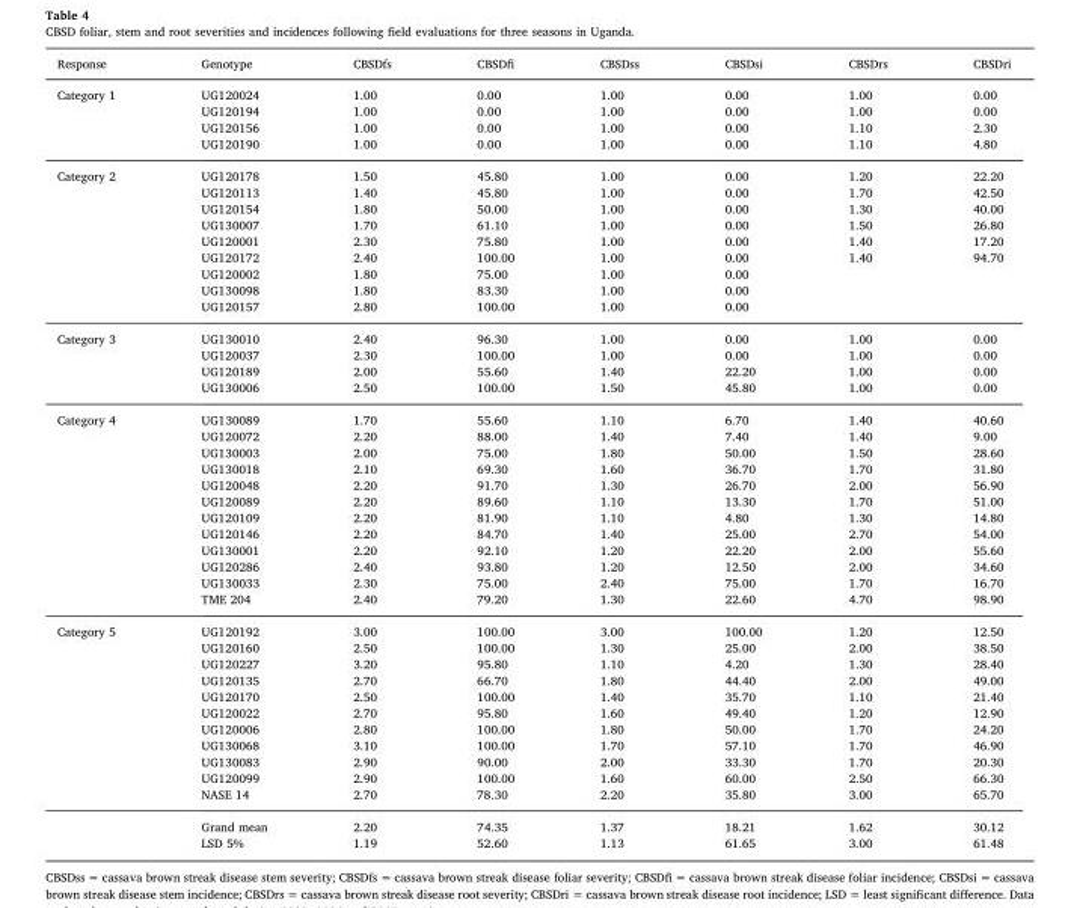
<table><thead><tr><td>Response</td><td>Genotype</td><td>CBSDfs</td><td>CBSDfi</td><td>CBSDss</td><td>CBSDsi</td><td>CBSDrs</td><td>CBSDri</td></tr></thead><tbody><tr><td rowspan="4">Category 1</td><td>UG120024</td><td>1.00</td><td>0.00</td><td>1.00</td><td>0.00</td><td>1.00</td><td>0.00</td></tr><tr><td>UG120194</td><td>1.00</td><td>0.00</td><td>1.00</td><td>0.00</td><td>1.00</td><td>0.00</td></tr><tr><td>UG120156</td><td>1.00</td><td>0.00</td><td>1.00</td><td>0.00</td><td>1.10</td><td>2.30</td></tr><tr><td>UG120190</td><td>1.00</td><td>0.00</td><td>1.00</td><td>0.00</td><td>1.10</td><td>4.80</td></tr><tr><td rowspan="9">Category 2</td><td>UG120178</td><td>1.50</td><td>45.80</td><td>1.00</td><td>0.00</td><td>1.20</td><td>22.20</td></tr><tr><td>UG120113</td><td>1.40</td><td>45.80</td><td>1.00</td><td>0.00</td><td>1.70</td><td>42.50</td></tr><tr><td>UG120154</td><td>1.80</td><td>50.00</td><td>1.00</td><td>0.00</td><td>1.30</td><td>40.00</td></tr><tr><td>UG130007</td><td>1.70</td><td>61.10</td><td>1.00</td><td>0.00</td><td>1.50</td><td>26.80</td></tr><tr><td>UG120001</td><td>2.30</td><td>75.80</td><td>1.00</td><td>0.00</td><td>1.40</td><td>17.20</td></tr><tr><td>UG120172</td><td>2.40</td><td>100.00</td><td>1.00</td><td>0.00</td><td>1.40</td><td>94.70</td></tr><tr><td>UG120002</td><td>1.80</td><td>75.00</td><td>1.00</td><td>0.00</td><td></td><td></td></tr><tr><td>UG130098</td><td>1.80</td><td>83.30</td><td>1.00</td><td>0.00</td><td></td><td></td></tr><tr><td>UG120157</td><td>2.80</td><td>100.00</td><td>1.00</td><td>0.00</td><td></td><td></td></tr><tr><td rowspan="4">Category 3</td><td>UG130010</td><td>2.40</td><td>96.30</td><td>1.00</td><td>0.00</td><td>1.00</td><td>0.00</td></tr><tr><td>UG120037</td><td>2.30</td><td>100.00</td><td>1.00</td><td>0.00</td><td>1.00</td><td>0.00</td></tr><tr><td>UG120189</td><td>2.00</td><td>55.60</td><td>1.40</td><td>22.20</td><td>1.00</td><td>0.00</td></tr><tr><td>UG130006</td><td>2.50</td><td>100.00</td><td>1.50</td><td>45.80</td><td>1.00</td><td>0.00</td></tr><tr><td rowspan="12">Category 4</td><td>UG130089</td><td>1.70</td><td>55.60</td><td>1.10</td><td>6.70</td><td>1.40</td><td>40.60</td></tr><tr><td>UG120072</td><td>2.20</td><td>88.00</td><td>1.40</td><td>7.40</td><td>1.40</td><td>9.00</td></tr><tr><td>UG130003</td><td>2.00</td><td>75.00</td><td>1.80</td><td>50.00</td><td>1.50</td><td>28.60</td></tr><tr><td>UG130018</td><td>2.10</td><td>69.30</td><td>1.60</td><td>36.70</td><td>1.70</td><td>31.80</td></tr><tr><td>UG120048</td><td>2.20</td><td>91.70</td><td>1.30</td><td>26.70</td><td>2.00</td><td>56.90</td></tr><tr><td>UG120089</td><td>2.20</td><td>89.60</td><td>1.10</td><td>13.30</td><td>1.70</td><td>51.00</td></tr><tr><td>UG120109</td><td>2.20</td><td>81.90</td><td>1.10</td><td>4.80</td><td>1.30</td><td>14.80</td></tr><tr><td>UG120146</td><td>2.20</td><td>84.70</td><td>1.40</td><td>25.00</td><td>2.70</td><td>54.00</td></tr><tr><td>UG130001</td><td>2.20</td><td>92.10</td><td>1.20</td><td>22.20</td><td>2.00</td><td>55.60</td></tr><tr><td>UG120286</td><td>2.40</td><td>93.80</td><td>1.20</td><td>12.50</td><td>2.00</td><td>34.60</td></tr><tr><td>UG130033</td><td>2.30</td><td>75.00</td><td>2.40</td><td>75.00</td><td>1.70</td><td>16.70</td></tr><tr><td>TME 204</td><td>2.40</td><td>79.20</td><td>1.30</td><td>22.60</td><td>4.70</td><td>98.90</td></tr><tr><td rowspan="13">Category 5</td><td>UG120192</td><td>3.00</td><td>100.00</td><td>3.00</td><td>100.00</td><td>1.20</td><td>12.50</td></tr><tr><td>UG120160</td><td>2.50</td><td>100.00</td><td>1.30</td><td>25.00</td><td>2.00</td><td>38.50</td></tr><tr><td>UG120227</td><td>3.20</td><td>95.80</td><td>1.10</td><td>4.20</td><td>1.30</td><td>28.40</td></tr><tr><td>UG120135</td><td>2.70</td><td>66.70</td><td>1.80</td><td>44.40</td><td>2.00</td><td>49.00</td></tr><tr><td>UG120170</td><td>2.50</td><td>100.00</td><td>1.40</td><td>35.70</td><td>1.10</td><td>21.40</td></tr><tr><td>UG120022</td><td>2.70</td><td>95.80</td><td>1.60</td><td>49.40</td><td>1.20</td><td>12.90</td></tr><tr><td>UG120006</td><td>2.80</td><td>100.00</td><td>1.80</td><td>50.00</td><td>1.70</td><td>24.20</td></tr><tr><td>UG130068</td><td>3.10</td><td>100.00</td><td>1.70</td><td>57.10</td><td>1.70</td><td>46.90</td></tr><tr><td>UG130083</td><td>2.90</td><td>90.00</td><td>2.00</td><td>33.30</td><td>1.70</td><td>20.30</td></tr><tr><td>UG120099</td><td>2.90</td><td>100.00</td><td>1.60</td><td>60.00</td><td>2.50</td><td>66.30</td></tr><tr><td>NASE 14</td><td>2.70</td><td>78.30</td><td>2.20</td><td>35.80</td><td>3.00</td><td>65.70</td></tr><tr><td>Grand mean</td><td>2.20</td><td>74.35</td><td>1.37</td><td>18.21</td><td>1.62</td><td>30.12</td></tr><tr><td>LSD 5%</td><td>1.19</td><td>52.60</td><td>1.13</td><td>61.65</td><td>3.00</td><td>61.48</td></tr></tbody></table>